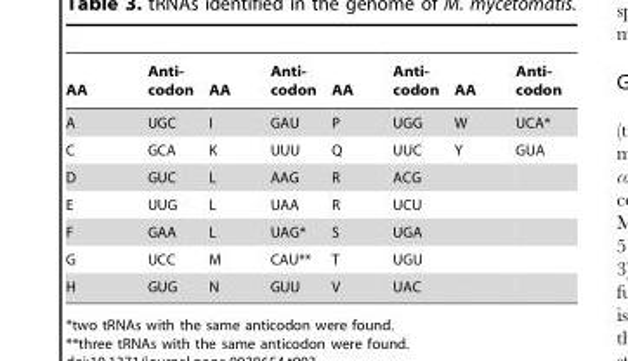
<table><thead><tr><td>AA</td><td>Anti- codon</td><td>AA</td><td>Anti- codon</td><td>AA</td><td>Anti- codon</td><td>AA</td><td>Anti- codon</td></tr></thead><tbody><tr><td>A</td><td>UGC</td><td>I</td><td>GAU</td><td>P</td><td>UGG</td><td>W</td><td>UCA*</td></tr><tr><td>C</td><td>GCA</td><td>K</td><td>UUU</td><td>Q</td><td>UUC</td><td>Y</td><td>GUA</td></tr><tr><td>D</td><td>GUC</td><td>L</td><td>AAG</td><td>R</td><td>ACG</td><td></td><td></td></tr><tr><td>E</td><td>UUG</td><td>L</td><td>UAA</td><td>R</td><td>UCU</td><td></td><td></td></tr><tr><td>F</td><td>GAA</td><td>L</td><td>UAG*</td><td>S</td><td>UGA</td><td></td><td></td></tr><tr><td>G</td><td>UCC</td><td>M</td><td>CAU**</td><td>T</td><td>UGU</td><td></td><td></td></tr><tr><td>H</td><td>GUG</td><td>N</td><td>GUU</td><td>V</td><td>UAC</td><td></td><td></td></tr></tbody></table>